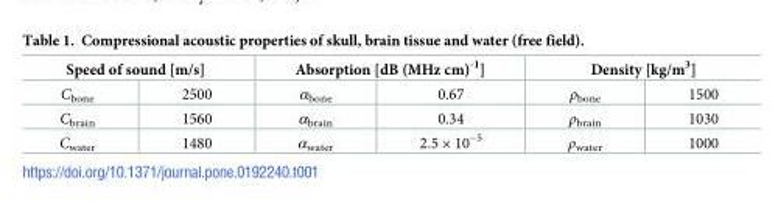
<table><thead><tr><td colspan="2">Speed of sound [m/s]</td><td colspan="2">Absorption [dB (MHz cm)<sup>-1</sup>]</td><td colspan="2">Density [kg/m<sup>3</sup>]</td></tr><tr><td>C<sub>bone</sub></td><td>2500</td><td>α<sub>bone</sub></td><td>0.67</td><td>ρ<sub>bone</sub></td><td>1500</td></tr></thead><tbody><tr><td>C<sub>brain</sub></td><td>1560</td><td>α<sub>brain</sub></td><td>0.34</td><td>ρ<sub>brain</sub></td><td>1030</td></tr><tr><td>C<sub>water</sub></td><td>1480</td><td>α<sub>water</sub></td><td>2.5 × 10<sup>−5</sup></td><td>ρ<sub>water</sub></td><td>1000</td></tr></tbody></table>